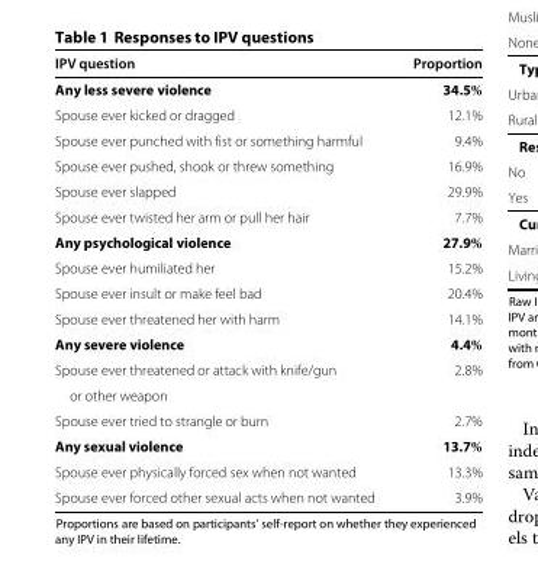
<table><thead><tr><td>IPV question</td><td>Proportion</td></tr></thead><tbody><tr><td>Any less severe violence</td><td>34.5%</td></tr><tr><td>Spouse ever kicked or dragged</td><td>12.1%</td></tr><tr><td>Spouse ever punched with fist or something harmful</td><td>9.4%</td></tr><tr><td>Spouse ever pushed, shook or threw something</td><td>16.9%</td></tr><tr><td>Spouse ever slapped</td><td>29.9%</td></tr><tr><td>Spouse ever twisted her arm or pull her hair</td><td>7.7%</td></tr><tr><td>Any psychological violence</td><td>27.9%</td></tr><tr><td>Spouse ever humiliated her</td><td>15.2%</td></tr><tr><td>Spouse ever insult or make feel bad</td><td>20.4%</td></tr><tr><td>Spouse ever threatened her with harm</td><td>14.1%</td></tr><tr><td>Any severe violence</td><td>4.4%</td></tr><tr><td>Spouse ever threatened or attack with knife/gun</td><td>2.8%</td></tr><tr><td colspan="2">or other weapon</td></tr><tr><td>Spouse ever tried to strangle or burn</td><td>2.7%</td></tr><tr><td>Any sexual violence</td><td>13.7%</td></tr><tr><td>Spouse ever physically forced sex when not wanted</td><td>13.3%</td></tr><tr><td>Spouse ever forced other sexual acts when not wanted</td><td>3.9%</td></tr></tbody></table>